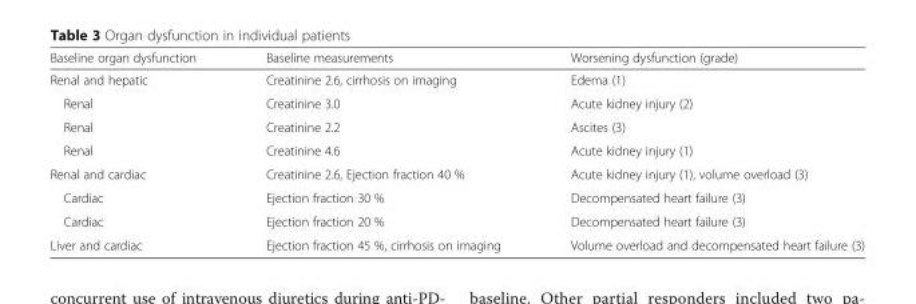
<table><thead><tr><td>Baseline organ dysfunction</td><td>Baseline measurements</td><td>Worsening dysfunction (grade)</td></tr></thead><tbody><tr><td>Renal and hepatic</td><td>Creatinine 2.6, cirrhosis on imaging</td><td>Edema (1)</td></tr><tr><td>Renal</td><td>Creatinine 3.0</td><td>Acute kidney injury (2)</td></tr><tr><td>Renal</td><td>Creatinine 2.2</td><td>Ascites (3)</td></tr><tr><td>Renal</td><td>Creatinine 4.6</td><td>Acute kidney injury (1)</td></tr><tr><td>Renal and cardiac</td><td>Creatinine 2.6, Ejection fraction 40 %</td><td>Acute kidney injury (1), volume overload (3)</td></tr><tr><td>Cardiac</td><td>Ejection fraction 30 %</td><td>Decompensated heart failure (3)</td></tr><tr><td>Cardiac</td><td>Ejection fraction 20 %</td><td>Decompensated heart failure (3)</td></tr><tr><td>Liver and cardiac</td><td>Ejection fraction 45 %, cirrhosis on imaging</td><td>Volume overload and decompensated heart failure (3)</td></tr></tbody></table>